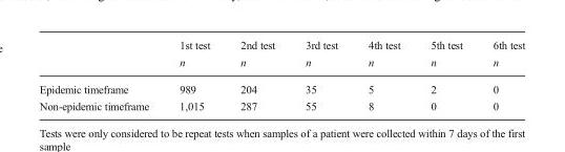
<table><thead><tr><td></td><td>1st test n</td><td>2nd test n</td><td>3rd test n</td><td>4th test n</td><td>5th test n</td><td>6th test n</td></tr></thead><tbody><tr><td>Epidemic timeframe</td><td>989</td><td>204</td><td>35</td><td>5</td><td>2</td><td>0</td></tr><tr><td>Non-epidemic timeframe</td><td>1,015</td><td>287</td><td>55</td><td>8</td><td>0</td><td>0</td></tr></tbody></table>